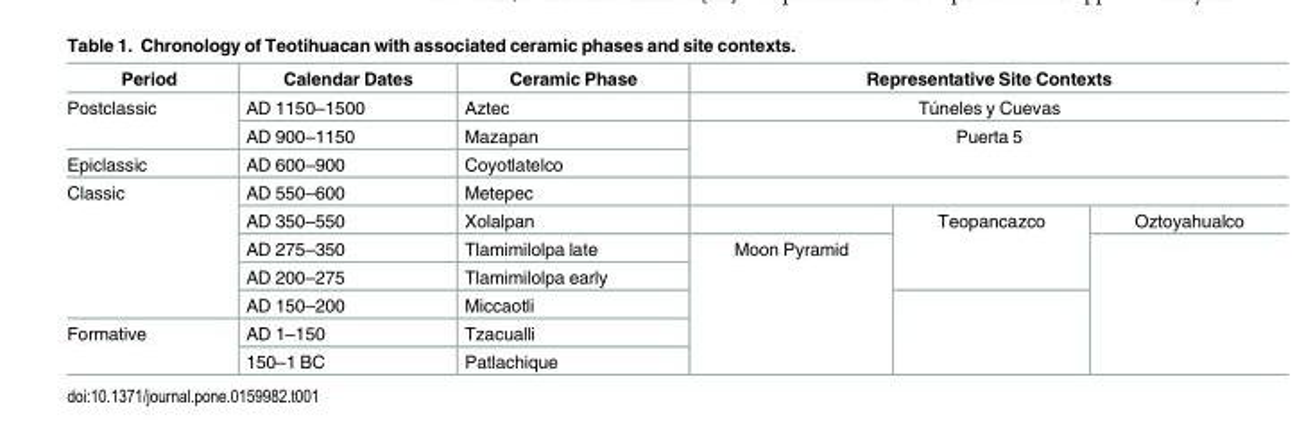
<table><thead><tr><td>Period</td><td>Calendar Dates</td><td>Ceramic Phase</td><td colspan="3">Representative Site Contexts</td></tr></thead><tbody><tr><td rowspan="2">Postclassic</td><td>AD 1150–1500</td><td>Aztec</td><td colspan="3">Túneles y Cuevas</td></tr><tr><td>AD 900–1150</td><td>Mazapan</td><td rowspan="2" colspan="3">Puerta 5</td></tr><tr><td>Epiclassic</td><td>AD 600–900</td><td>Coyotlatelco</td></tr><tr><td rowspan="5">Classic</td><td>AD 550–600</td><td>Metepec</td><td colspan="3"></td></tr><tr><td>AD 350–550</td><td>Xolalpan</td><td></td><td rowspan="3">Teopancazco</td><td>Oztoyahualco</td></tr><tr><td>AD 275–350</td><td>Tlamimilolpa late</td><td rowspan="5">Moon Pyramid</td><td rowspan="5"></td></tr><tr><td>AD 200–275</td><td>Tlamimilolpa early</td></tr><tr><td>AD 150–200</td><td>Miccaotli</td><td rowspan="3"></td></tr><tr><td rowspan="2">Formative</td><td>AD 1–150</td><td>Tzacualli</td></tr><tr><td>150–1 BC</td><td>Patlachique</td></tr></tbody></table>